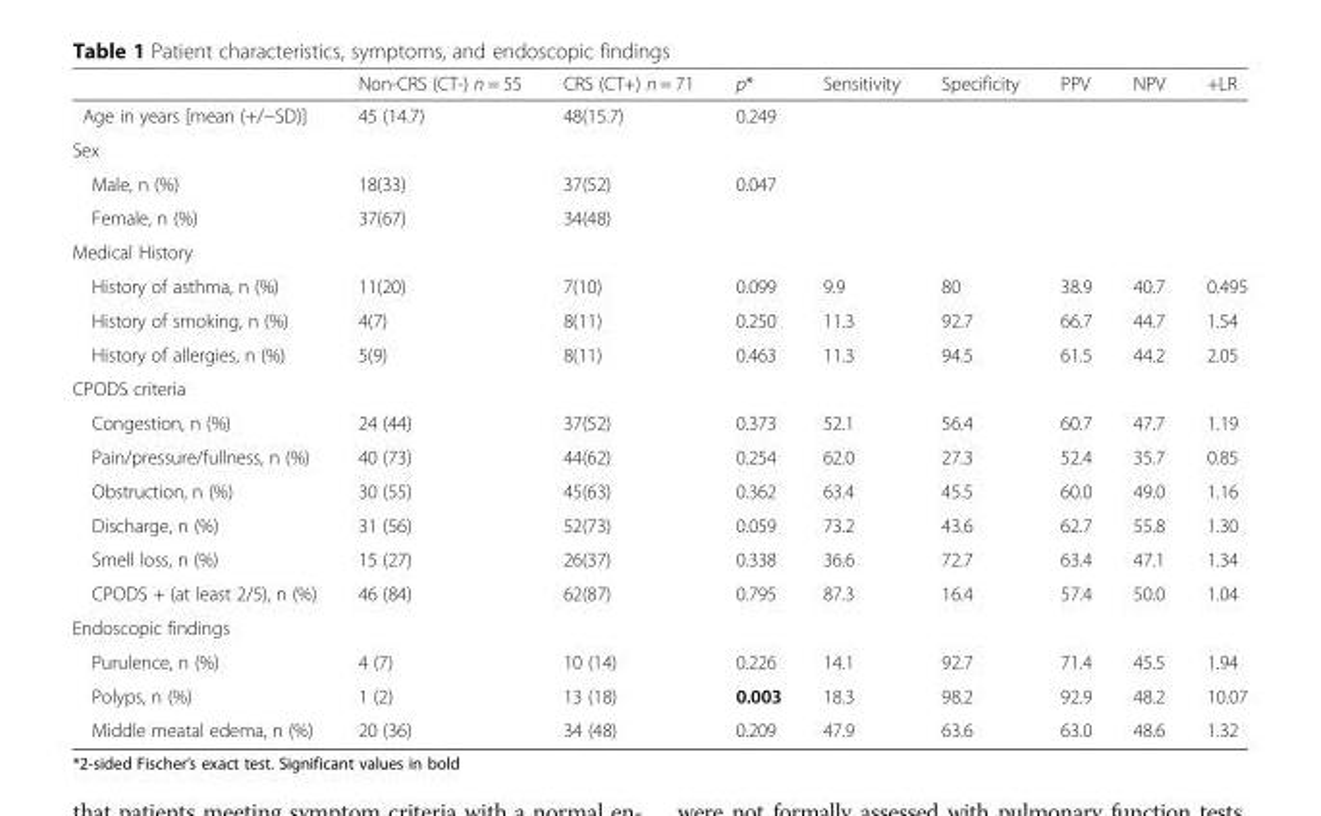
<table><thead><tr><td></td><td>Non-CRS (CT-) n = 55</td><td>CRS (CT+) n = 71</td><td>p*</td><td>Sensitivity</td><td>Specificity</td><td>PPV</td><td>NPV</td><td>+LR</td></tr></thead><tbody><tr><td>Age in years [mean (+/−SD)]</td><td>45 (14.7)</td><td>48(15.7)</td><td>0.249</td><td></td><td></td><td></td><td></td><td></td></tr><tr><td colspan="9">Sex</td></tr><tr><td>Male, n (%)</td><td>18(33)</td><td>37(52)</td><td rowspan="2">0.047</td><td></td><td></td><td></td><td></td><td></td></tr><tr><td>Female, n (%)</td><td>37(67)</td><td>34(48)</td><td></td><td></td><td></td><td></td><td></td></tr><tr><td colspan="9">Medical History</td></tr><tr><td>History of asthma, n (%)</td><td>11(20)</td><td>7(10)</td><td>0.099</td><td>9.9</td><td>80</td><td>38.9</td><td>40.7</td><td>0.495</td></tr><tr><td>History of smoking, n (%)</td><td>4(7)</td><td>8(11)</td><td>0.250</td><td>11.3</td><td>92.7</td><td>66.7</td><td>44.7</td><td>1.54</td></tr><tr><td>History of allergies, n (%)</td><td>5(9)</td><td>8(11)</td><td>0.463</td><td>11.3</td><td>94.5</td><td>61.5</td><td>44.2</td><td>2.05</td></tr><tr><td colspan="9">CPODS criteria</td></tr><tr><td>Congestion, n (%)</td><td>24 (44)</td><td>37(52)</td><td>0.373</td><td>52.1</td><td>56.4</td><td>60.7</td><td>47.7</td><td>1.19</td></tr><tr><td>Pain/pressure/fullness, n (%)</td><td>40 (73)</td><td>44(62)</td><td>0.254</td><td>62.0</td><td>27.3</td><td>52.4</td><td>35.7</td><td>0.85</td></tr><tr><td>Obstruction, n (%)</td><td>30 (55)</td><td>45(63)</td><td>0.362</td><td>63.4</td><td>45.5</td><td>60.0</td><td>49.0</td><td>1.16</td></tr><tr><td>Discharge, n (%)</td><td>31 (56)</td><td>52(73)</td><td>0.059</td><td>73.2</td><td>43.6</td><td>62.7</td><td>55.8</td><td>1.30</td></tr><tr><td>Smell loss, n (%)</td><td>15 (27)</td><td>26(37)</td><td>0.338</td><td>36.6</td><td>72.7</td><td>63.4</td><td>47.1</td><td>1.34</td></tr><tr><td>CPODS + (at least 2/5), n (%)</td><td>46 (84)</td><td>62(87)</td><td>0.795</td><td>87.3</td><td>16.4</td><td>57.4</td><td>50.0</td><td>1.04</td></tr><tr><td colspan="9">Endoscopic findings</td></tr><tr><td>Purulence, n (%)</td><td>4 (7)</td><td>10 (14)</td><td>0.226</td><td>14.1</td><td>92.7</td><td>71.4</td><td>45.5</td><td>1.94</td></tr><tr><td>Polyps, n (%)</td><td>1 (2)</td><td>13 (18)</td><td>0.003</td><td>18.3</td><td>98.2</td><td>92.9</td><td>48.2</td><td>10.07</td></tr><tr><td>Middle meatal edema, n (%)</td><td>20 (36)</td><td>34 (48)</td><td>0.209</td><td>47.9</td><td>63.6</td><td>63.0</td><td>48.6</td><td>1.32</td></tr></tbody></table>